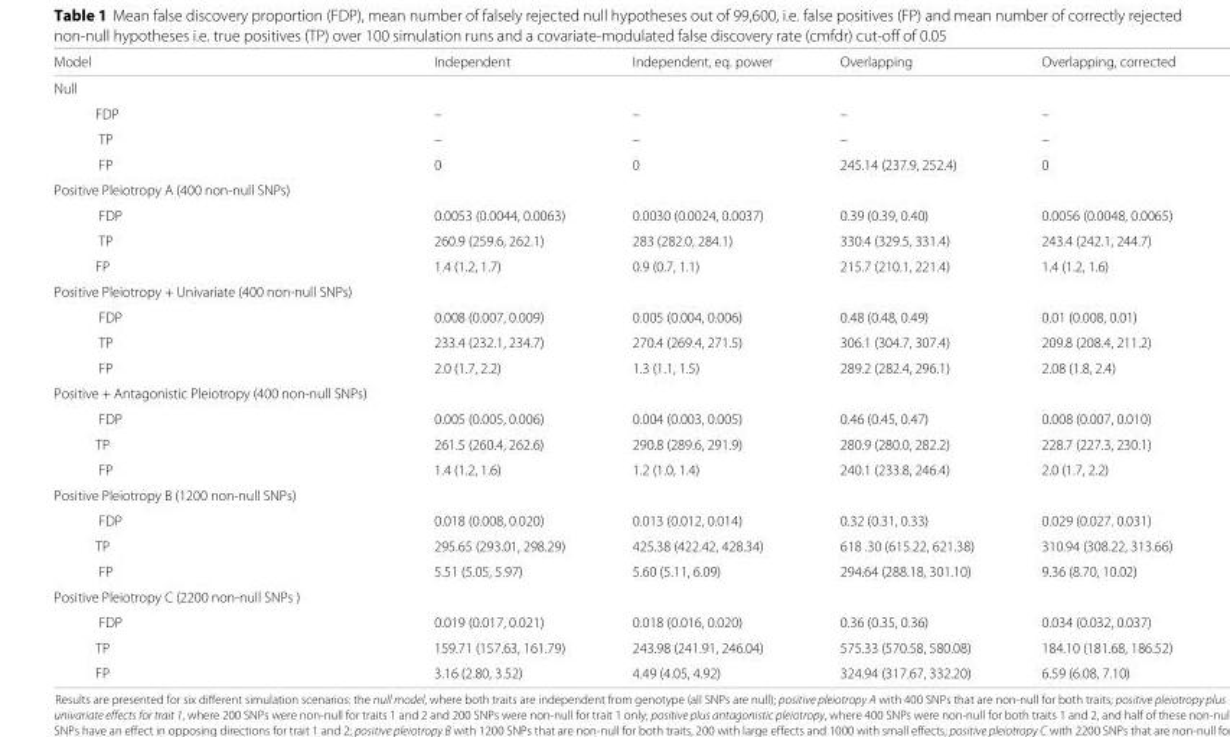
<table><thead><tr><td>Model</td><td>Independent</td><td>Independent, eq. power</td><td>Overlapping</td><td>Overlapping, corrected</td></tr></thead><tbody><tr><td colspan="5">Null</td></tr><tr><td>FDP</td><td>–</td><td>–</td><td>–</td><td>–</td></tr><tr><td>TP</td><td>–</td><td>–</td><td>–</td><td>–</td></tr><tr><td>FP</td><td>0</td><td>0</td><td>245.14 (237.9, 252.4)</td><td>0</td></tr><tr><td colspan="5">Positive Pleiotropy A (400 non-null SNPs)</td></tr><tr><td>FDP</td><td>0.0053 (0.0044, 0.0063)</td><td>0.0030 (0.0024, 0.0037)</td><td>0.39 (0.39, 0.40)</td><td>0.0056 (0.0048, 0.0065)</td></tr><tr><td>TP</td><td>260.9 (259.6, 262.1)</td><td>283 (282.0, 284.1)</td><td>330.4 (329.5, 331.4)</td><td>243.4 (242.1, 244.7)</td></tr><tr><td>FP</td><td>1.4 (1.2, 1.7)</td><td>0.9 (0.7, 1.1)</td><td>215.7 (210.1, 221.4)</td><td>1.4 (1.2, 1.6)</td></tr><tr><td colspan="5">Positive Pleiotropy + Univariate (400 non-null SNPs)</td></tr><tr><td>FDP</td><td>0.008 (0.007, 0.009)</td><td>0.005 (0.004, 0.006)</td><td>0.48 (0.48, 0.49)</td><td>0.01 (0.008, 0.01)</td></tr><tr><td>TP</td><td>233.4 (232.1, 234.7)</td><td>270.4 (269.4, 271.5)</td><td>306.1 (304.7, 307.4)</td><td>209.8 (208.4, 211.2)</td></tr><tr><td>FP</td><td>2.0 (1.7, 2.2)</td><td>1.3 (1.1, 1.5)</td><td>289.2 (282.4, 296.1)</td><td>2.08 (1.8, 2.4)</td></tr><tr><td colspan="5">Positive + Antagonistic Pleiotropy (400 non-null SNPs)</td></tr><tr><td>FDP</td><td>0.005 (0.005, 0.006)</td><td>0.004 (0.003, 0.005)</td><td>0.46 (0.45, 0.47)</td><td>0.008 (0.007, 0.010)</td></tr><tr><td>TP</td><td>261.5 (260.4, 262.6)</td><td>290.8 (289.6, 291.9)</td><td>280.9 (280.0, 282.2)</td><td>228.7 (227.3, 230.1)</td></tr><tr><td>FP</td><td>1.4 (1.2, 1.6)</td><td>1.2 (1.0, 1.4)</td><td>240.1 (233.8, 246.4)</td><td>2.0 (1.7, 2.2)</td></tr><tr><td colspan="5">Positive Pleiotropy B (1200 non-null SNPs)</td></tr><tr><td>FDP</td><td>0.018 (0.008, 0.020)</td><td>0.013 (0.012, 0.014)</td><td>0.32 (0.31, 0.33)</td><td>0.029 (0.027. 0.031)</td></tr><tr><td>TP</td><td>295.65 (293.01, 298.29)</td><td>425.38 (422.42, 428.34)</td><td>618 .30 (615.22, 621.38)</td><td>310.94 (308.22, 313.66)</td></tr><tr><td>FP</td><td>5.51 (5.05, 5.97)</td><td>5.60 (5.11, 6.09)</td><td>294.64 (288.18, 301.10)</td><td>9.36 (8.70, 10.02)</td></tr><tr><td colspan="5">Positive Pleiotropy C (2200 non-null SNPs )</td></tr><tr><td>FDP</td><td>0.019 (0.017, 0.021)</td><td>0.018 (0.016, 0.020)</td><td>0.36 (0.35, 0.36)</td><td>0.034 (0.032, 0.037)</td></tr><tr><td>TP</td><td>159.71 (157.63, 161.79)</td><td>243.98 (241.91, 246.04)</td><td>575.33 (570.58, 580.08)</td><td>184.10 (181.68, 186.52)</td></tr><tr><td>FP</td><td>3.16 (2.80, 3.52)</td><td>4.49 (4.05, 4.92)</td><td>324.94 (317.67, 332.20)</td><td>6.59 (6.08, 7.10)</td></tr></tbody></table>